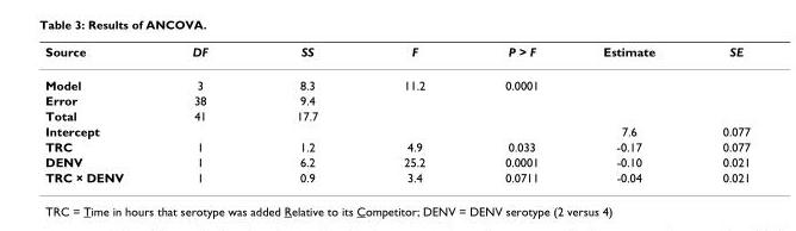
<table><thead><tr><td>Source</td><td>DF</td><td>SS</td><td>F</td><td>P &gt; F</td><td>Estimate</td><td>SE</td></tr></thead><tbody><tr><td>Model</td><td>3</td><td>8.3</td><td>11.2</td><td>0.0001</td><td></td><td></td></tr><tr><td>Error</td><td>38</td><td>9.4</td><td></td><td></td><td></td><td></td></tr><tr><td>Total</td><td>41</td><td>17.7</td><td></td><td></td><td></td><td></td></tr><tr><td>Intercept</td><td></td><td></td><td></td><td></td><td>7.6</td><td>0.077</td></tr><tr><td>TRC</td><td>1</td><td>1.2</td><td>4.9</td><td>0.033</td><td>-0.17</td><td>0.077</td></tr><tr><td>DENV</td><td>1</td><td>6.2</td><td>25.2</td><td>0.0001</td><td>-0.10</td><td>0.021</td></tr><tr><td>TRC × DENV</td><td>1</td><td>0.9</td><td>3.4</td><td>0.0711</td><td>-0.04</td><td>0.021</td></tr></tbody></table>